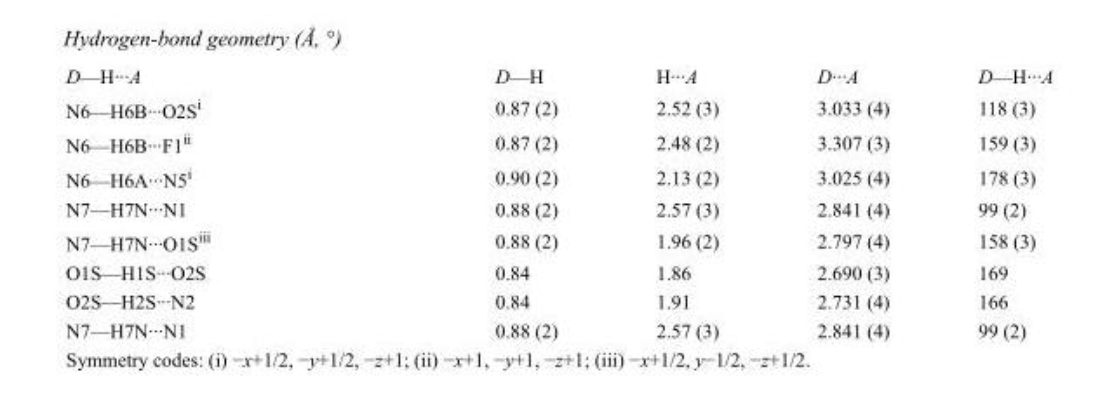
<table><tbody><tr><td>D—H···A</td><td>D—H</td><td>H···A</td><td>D···A</td><td>D—H···A</td></tr><tr><td>N6—H6B···O2S<sup>i</sup></td><td>0.87 (2)</td><td>2.52 (3)</td><td>3.033 (4)</td><td>118 (3)</td></tr><tr><td>N6—H6B···F1<sup>ii</sup></td><td>0.87 (2)</td><td>2.48 (2)</td><td>3.307 (3)</td><td>159 (3)</td></tr><tr><td>N6—H6A···N5<sup>i</sup></td><td>0.90 (2)</td><td>2.13 (2)</td><td>3.025 (4)</td><td>178 (3)</td></tr><tr><td>N7—H7N···N1</td><td>0.88 (2)</td><td>2.57 (3)</td><td>2.841 (4)</td><td>99 (2)</td></tr><tr><td>N7—H7N···O1S<sup>iii</sup></td><td>0.88 (2)</td><td>1.96 (2)</td><td>2.797 (4)</td><td>158 (3)</td></tr><tr><td>O1S—H1S···O2S</td><td>0.84</td><td>1.86</td><td>2.690 (3)</td><td>169</td></tr><tr><td>O2S—H2S···N2</td><td>0.84</td><td>1.91</td><td>2.731 (4)</td><td>166</td></tr><tr><td>N7—H7N···N1</td><td>0.88 (2)</td><td>2.57 (3)</td><td>2.841 (4)</td><td>99 (2)</td></tr></tbody></table>